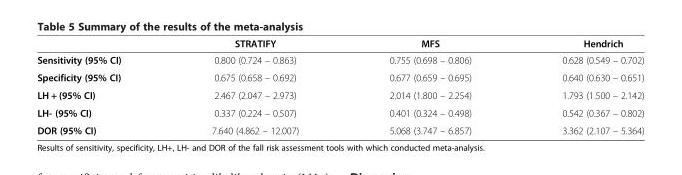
<table><thead><tr><td></td><td>STRATIFY</td><td>MFS</td><td>Hendrich</td></tr></thead><tbody><tr><td>Sensitivity (95% CI)</td><td>0.800 (0.724 – 0.863)</td><td>0.755 (0.698 – 0.806)</td><td>0.628 (0.549 – 0.702)</td></tr><tr><td>Specificity (95% CI)</td><td>0.675 (0.658 – 0.692)</td><td>0.677 (0.659 – 0.695)</td><td>0.640 (0.630 – 0.651)</td></tr><tr><td>LH + (95% CI)</td><td>2.467 (2.047 – 2.973)</td><td>2.014 (1.800 – 2.254)</td><td>1.793 (1.500 – 2.142)</td></tr><tr><td>LH- (95% CI)</td><td>0.337 (0.224 – 0.507)</td><td>0.401 (0.324 – 0.498)</td><td>0.542 (0.367 – 0.802)</td></tr><tr><td>DOR (95% CI)</td><td>7.640 (4.862 – 12.007)</td><td>5.068 (3.747 – 6.857)</td><td>3.362 (2.107 – 5.364)</td></tr></tbody></table>